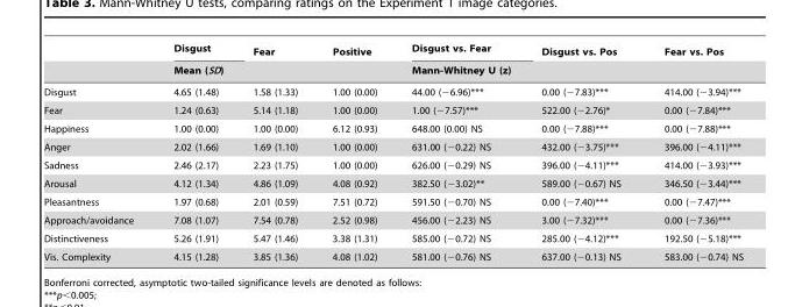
<table><thead><tr><td rowspan="2"></td><td>Disgust</td><td>Fear</td><td>Positive</td><td>Disgust vs. Fear</td><td>Disgust vs. Pos</td><td>Fear vs. Pos</td></tr><tr><td colspan="3">Mean (SD)</td><td colspan="3">Mann-Whitney U (z)</td></tr></thead><tbody><tr><td>Disgust</td><td>4.65 (1.48)</td><td>1.58 (1.33)</td><td>1.00 (0.00)</td><td>44.00 (−6.96)***</td><td>0.00 (−7.83)***</td><td>414.00 (−3.94)***</td></tr><tr><td>Fear</td><td>1.24 (0.63)</td><td>5.14 (1.18)</td><td>1.00 (0.00)</td><td>1.00 (−7.57)***</td><td>522.00 (−2.76)*</td><td>0.00 (−7.84)***</td></tr><tr><td>Happiness</td><td>1.00 (0.00)</td><td>1.00 (0.00)</td><td>6.12 (0.93)</td><td>648.00 (0.00) NS</td><td>0.00 (−7.88)***</td><td>0.00 (−7.88)***</td></tr><tr><td>Anger</td><td>2.02 (1.66)</td><td>1.69 (1.10)</td><td>1.00 (0.00)</td><td>631.00 (−0.22) NS</td><td>432.00 (−3.75)***</td><td>396.00 (−4.11)***</td></tr><tr><td>Sadness</td><td>2.46 (2.17)</td><td>2.23 (1.75)</td><td>1.00 (0.00)</td><td>626.00 (−0.29) NS</td><td>396.00 (−4.11)***</td><td>414.00 (−3.93)***</td></tr><tr><td>Arousal</td><td>4.12 (1.34)</td><td>4.86 (1.09)</td><td>4.08 (0.92)</td><td>382.50 (−3.02)**</td><td>589.00 (−0.67) NS</td><td>346.50 (−3.44)***</td></tr><tr><td>Pleasantness</td><td>1.97 (0.68)</td><td>2.01 (0.59)</td><td>7.51 (0.72)</td><td>591.50 (−0.70) NS</td><td>0.00 (−7.40)***</td><td>0.00 (−7.47)***</td></tr><tr><td>Approach/avoidance</td><td>7.08 (1.07)</td><td>7.54 (0.78)</td><td>2.52 (0.98)</td><td>456.00 (−2.23) NS</td><td>3.00 (−7.32)***</td><td>0.00 (−7.36)***</td></tr><tr><td>Distinctiveness</td><td>5.26 (1.91)</td><td>5.47 (1.46)</td><td>3.38 (1.31)</td><td>585.00 (−0.72) NS</td><td>285.00 (−4.12)***</td><td>192.50 (−5.18)***</td></tr><tr><td>Vis. Complexity</td><td>4.15 (1.28)</td><td>3.85 (1.36)</td><td>4.08 (1.02)</td><td>581.00 (−0.76) NS</td><td>637.00 (−0.13) NS</td><td>583.00 (−0.74) NS</td></tr></tbody></table>